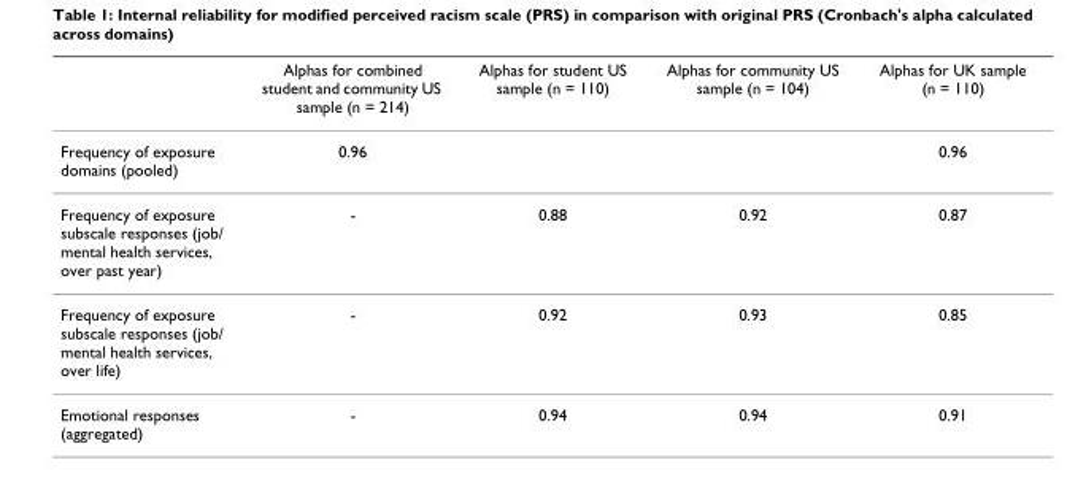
<table><thead><tr><td></td><td>Alphas for combined student and community US sample (n = 214)</td><td>Alphas for student US sample (n = 110)</td><td>Alphas for community US sample (n = 104)</td><td>Alphas for UK sample (n = 110)</td></tr></thead><tbody><tr><td>Frequency of exposure domains (pooled)</td><td>0.96</td><td></td><td></td><td>0.96</td></tr><tr><td>Frequency of exposure subscale responses (job/ mental health services, over past year)</td><td>-</td><td>0.88</td><td>0.92</td><td>0.87</td></tr><tr><td>Frequency of exposure subscale responses (job/ mental health services, over life)</td><td>-</td><td>0.92</td><td>0.93</td><td>0.85</td></tr><tr><td>Emotional responses (aggregated)</td><td>-</td><td>0.94</td><td>0.94</td><td>0.91</td></tr></tbody></table>